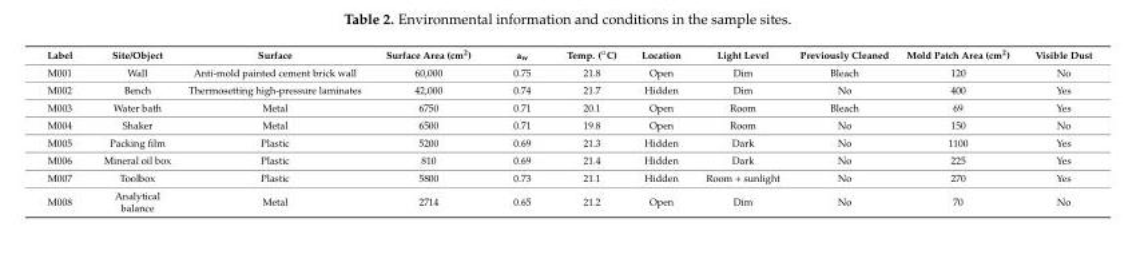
<table><thead><tr><td>Label</td><td>Site/Object</td><td>Surface</td><td>Surface Area (cm<sup>2</sup>)</td><td>a<sub>w</sub></td><td>Temp. (◦C)</td><td>Location</td><td>Light Level</td><td>Previously Cleaned</td><td>Mold Patch Area (cm<sup>2</sup>)</td><td>Visible Dust</td></tr></thead><tbody><tr><td>M001</td><td>Wall</td><td>Anti-mold painted cement brick wall</td><td>60,000</td><td>0.75</td><td>21.8</td><td>Open</td><td>Dim</td><td>Bleach</td><td>120</td><td>No</td></tr><tr><td>M002</td><td>Bench</td><td>Thermosetting high-pressure laminates</td><td>42,000</td><td>0.74</td><td>21.7</td><td>Hidden</td><td>Dim</td><td>No</td><td>400</td><td>Yes</td></tr><tr><td>M003</td><td>Water bath</td><td>Metal</td><td>6750</td><td>0.71</td><td>20.1</td><td>Open</td><td>Room</td><td>Bleach</td><td>69</td><td>Yes</td></tr><tr><td>M004</td><td>Shaker</td><td>Metal</td><td>6500</td><td>0.71</td><td>19.8</td><td>Open</td><td>Room</td><td>No</td><td>150</td><td>No</td></tr><tr><td>M005</td><td>Packing film</td><td>Plastic</td><td>5200</td><td>0.69</td><td>21.3</td><td>Hidden</td><td>Dark</td><td>No</td><td>1100</td><td>Yes</td></tr><tr><td>M006</td><td>Mineral oil box</td><td>Plastic</td><td>810</td><td>0.69</td><td>21.4</td><td>Hidden</td><td>Dark</td><td>No</td><td>225</td><td>Yes</td></tr><tr><td>M007</td><td>Toolbox</td><td>Plastic</td><td>5800</td><td>0.73</td><td>21.1</td><td>Hidden</td><td>Room + sunlight</td><td>No</td><td>270</td><td>Yes</td></tr><tr><td>M008</td><td>Analytical balance</td><td>Metal</td><td>2714</td><td>0.65</td><td>21.2</td><td>Open</td><td>Dim</td><td>No</td><td>70</td><td>No</td></tr></tbody></table>